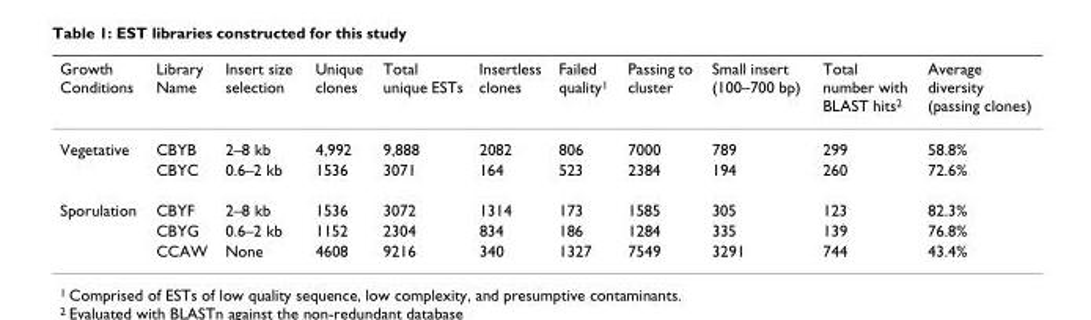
<table><thead><tr><td>Growth Conditions</td><td>Library Name</td><td>Insert size selection</td><td>Unique clones</td><td>Total unique ESTs</td><td>Insertless clones</td><td>Failed quality<sup>1</sup></td><td>Passing to cluster</td><td>Small insert (100–700 bp)</td><td>Total number with BLAST hits<sup>2</sup></td><td>Average diversity (passing clones)</td></tr></thead><tbody><tr><td rowspan="2">Vegetative</td><td>CBYB</td><td>2–8 kb</td><td>4,992</td><td>9,888</td><td>2082</td><td>806</td><td>7000</td><td>789</td><td>299</td><td>58.8%</td></tr><tr><td>CBYC</td><td>0.6–2 kb</td><td>1536</td><td>3071</td><td>164</td><td>523</td><td>2384</td><td>194</td><td>260</td><td>72.6%</td></tr><tr><td rowspan="3">Sporulation</td><td>CBYF</td><td>2–8 kb</td><td>1536</td><td>3072</td><td>1314</td><td>173</td><td>1585</td><td>305</td><td>123</td><td>82.3%</td></tr><tr><td>CBYG</td><td>0.6–2 kb</td><td>1152</td><td>2304</td><td>834</td><td>186</td><td>1284</td><td>335</td><td>139</td><td>76.8%</td></tr><tr><td>CCAW</td><td>None</td><td>4608</td><td>9216</td><td>340</td><td>1327</td><td>7549</td><td>3291</td><td>744</td><td>43.4%</td></tr></tbody></table>